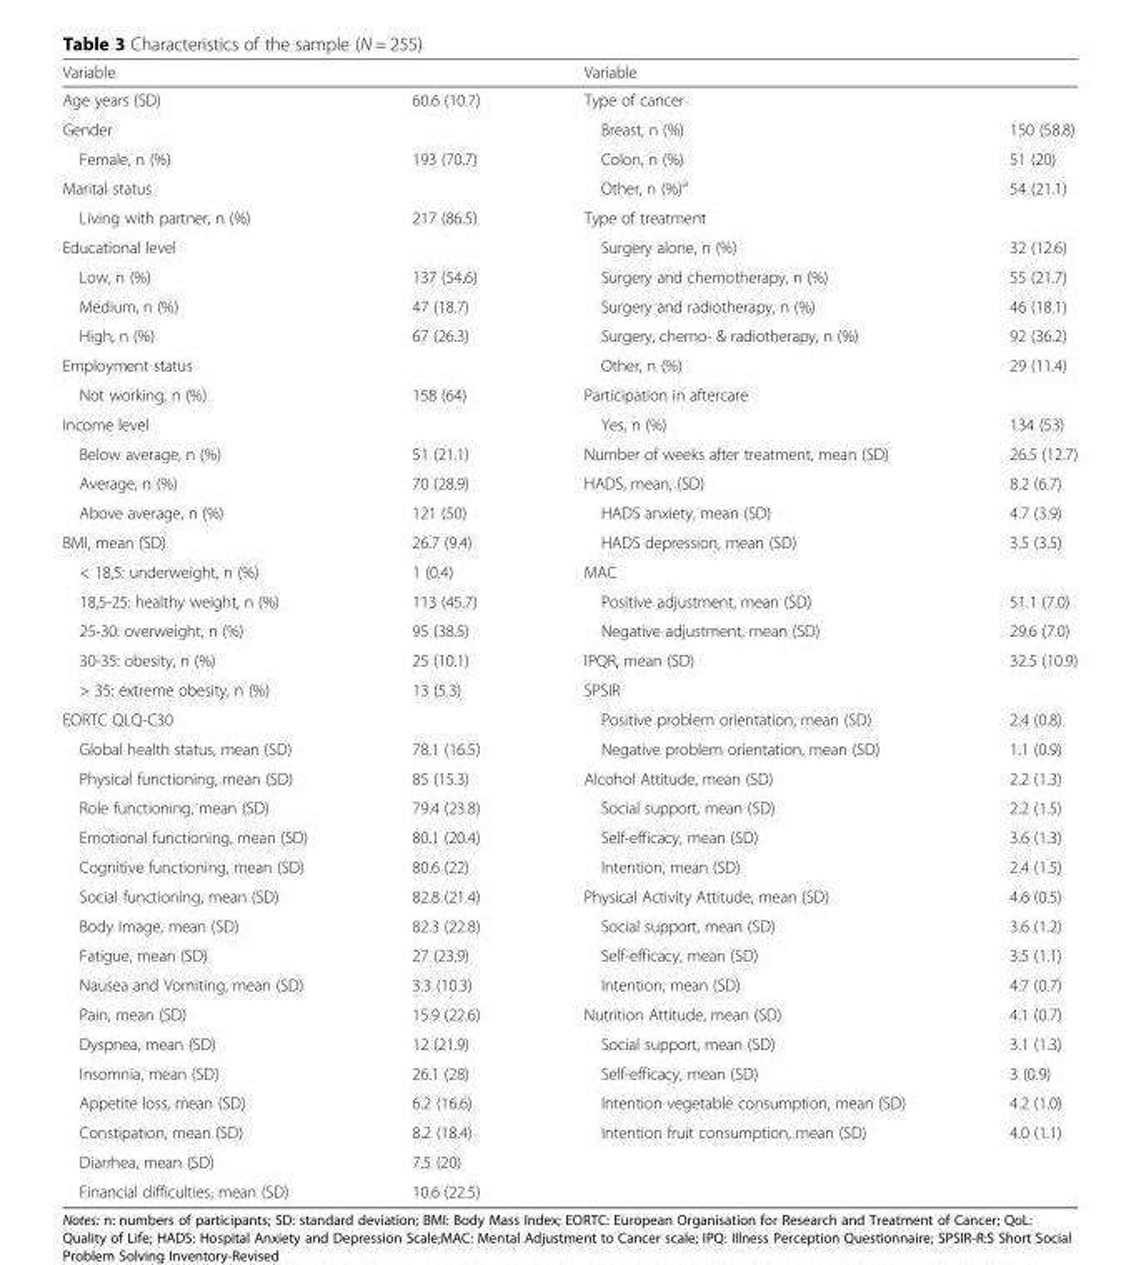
<table><thead><tr><td colspan="2">Variable</td><td rowspan="2">Variable Type of cancer</td><td rowspan="2"></td></tr><tr><td>Age years (SD)</td><td>60.6 (10.7)</td></tr></thead><tbody><tr><td>Gender</td><td></td><td>Breast, n (%)</td><td>150 (58.8)</td></tr><tr><td>Female, n (%)</td><td>193 (70.7)</td><td>Colon, n (%)</td><td>51 (20)</td></tr><tr><td>Marital status</td><td></td><td>Other, n (%)<sup>a</sup></td><td>54 (21.1)</td></tr><tr><td>Living with partner, n (%)</td><td>217 (86.5)</td><td>Type of treatment</td><td></td></tr><tr><td>Educational level</td><td></td><td>Surgery alone, n (%)</td><td>32 (12.6)</td></tr><tr><td>Low, n (%)</td><td>137 (54.6)</td><td>Surgery and chemotherapy, n (%)</td><td>55 (21.7)</td></tr><tr><td>Medium, n (%)</td><td>47 (18.7)</td><td>Surgery and radiotherapy, n (%)</td><td>46 (18.1)</td></tr><tr><td>High, n (%)</td><td>67 (26.3)</td><td>Surgery, chemo- &amp; radiotherapy, n (%)</td><td>92 (36.2)</td></tr><tr><td>Employment status</td><td></td><td>Other, n (%)</td><td>29 (11.4)</td></tr><tr><td>Not working, n (%)</td><td>158 (64)</td><td>Participation in aftercare</td><td></td></tr><tr><td>Income level</td><td></td><td>Yes, n (%)</td><td>134 (53)</td></tr><tr><td>Below average, n (%)</td><td>51 (21.1)</td><td>Number of weeks after treatment, mean (SD)</td><td>26.5 (12.7)</td></tr><tr><td>Average, n (%)</td><td>70 (28.9)</td><td>HADS, mean, (SD)</td><td>8.2 (6.7)</td></tr><tr><td>Above average, n (%)</td><td>121 (50)</td><td>HADS anxiety, mean (SD)</td><td>4.7 (3.9)</td></tr><tr><td>BMI, mean (SD)</td><td>26.7 (9.4)</td><td>HADS depression, mean (SD)</td><td>3.5 (3.5)</td></tr><tr><td>&lt; 18,5: underweight, n (%)</td><td>1 (0.4)</td><td>MAC</td><td></td></tr><tr><td>18,5-25: healthy weight, n (%)</td><td>113 (45.7)</td><td>Positive adjustment, mean (SD)</td><td>51.1 (7.0)</td></tr><tr><td>25-30: overweight, n (%)</td><td>95 (38.5)</td><td>Negative adjustment, mean (SD)</td><td>29.6 (7.0)</td></tr><tr><td>30-35: obesity, n (%)</td><td>25 (10.1)</td><td>IPQR, mean (SD)</td><td>32.5 (10.9)</td></tr><tr><td>&gt; 35: extreme obesity, n (%)</td><td>13 (5.3)</td><td>SPSIR</td><td></td></tr><tr><td>EORTC QLQ-C30</td><td></td><td>Positive problem orientation, mean (SD)</td><td>2.4 (0.8)</td></tr><tr><td>Global health status, mean (SD)</td><td>78.1 (16.5)</td><td>Negative problem orientation, mean (SD)</td><td>1.1 (0.9)</td></tr><tr><td>Physical functioning, mean (SD)</td><td>85 (15.3)</td><td>Alcohol Attitude, mean (SD)</td><td>2.2 (1.3)</td></tr><tr><td>Role functioning, mean (SD)</td><td>79.4 (23.8)</td><td>Social support, mean (SD)</td><td>2.2 (1.5)</td></tr><tr><td>Emotional functioning, mean (SD)</td><td>80.1 (20.4)</td><td>Self-efficacy, mean (SD)</td><td>3.6 (1.3)</td></tr><tr><td>Cognitive functioning, mean (SD)</td><td>80.6 (22)</td><td>Intention, mean (SD)</td><td>2.4 (1.5)</td></tr><tr><td>Social functioning, mean (SD)</td><td>82.8 (21.4)</td><td>Physical Activity Attitude, mean (SD)</td><td>4.6 (0.5)</td></tr><tr><td>Body Image, mean (SD)</td><td>82.3 (22.8)</td><td>Social support, mean (SD)</td><td>3.6 (1.2)</td></tr><tr><td>Fatigue, mean (SD)</td><td>27 (23.9)</td><td>Self-efficacy, mean (SD)</td><td>3.5 (1.1)</td></tr><tr><td>Nausea and Vomiting, mean (SD)</td><td>3.3 (10.3)</td><td>Intention, mean (SD)</td><td>4.7 (0.7)</td></tr><tr><td>Pain, mean (SD)</td><td>15.9 (22.6)</td><td>Nutrition Attitude, mean (SD)</td><td>4.1 (0.7)</td></tr><tr><td>Dyspnea, mean (SD)</td><td>12 (21.9)</td><td>Social support, mean (SD)</td><td>3.1 (1.3)</td></tr><tr><td>Insomnia, mean (SD)</td><td>26.1 (28)</td><td>Self-efficacy, mean (SD)</td><td>3 (0.9)</td></tr><tr><td>Appetite loss, mean (SD)</td><td>6.2 (16.6)</td><td>Intention vegetable consumption, mean (SD)</td><td>4.2 (1.0)</td></tr><tr><td>Constipation, mean (SD)</td><td>8.2 (18.4)</td><td>Intention fruit consumption, mean (SD)</td><td>4.0 (1.1)</td></tr><tr><td>Diarrhea, mean (SD)</td><td>7.5 (20)</td><td></td><td></td></tr><tr><td>Financial difficulties, mean (SD)</td><td>10.6 (22.5)</td><td></td><td></td></tr></tbody></table>